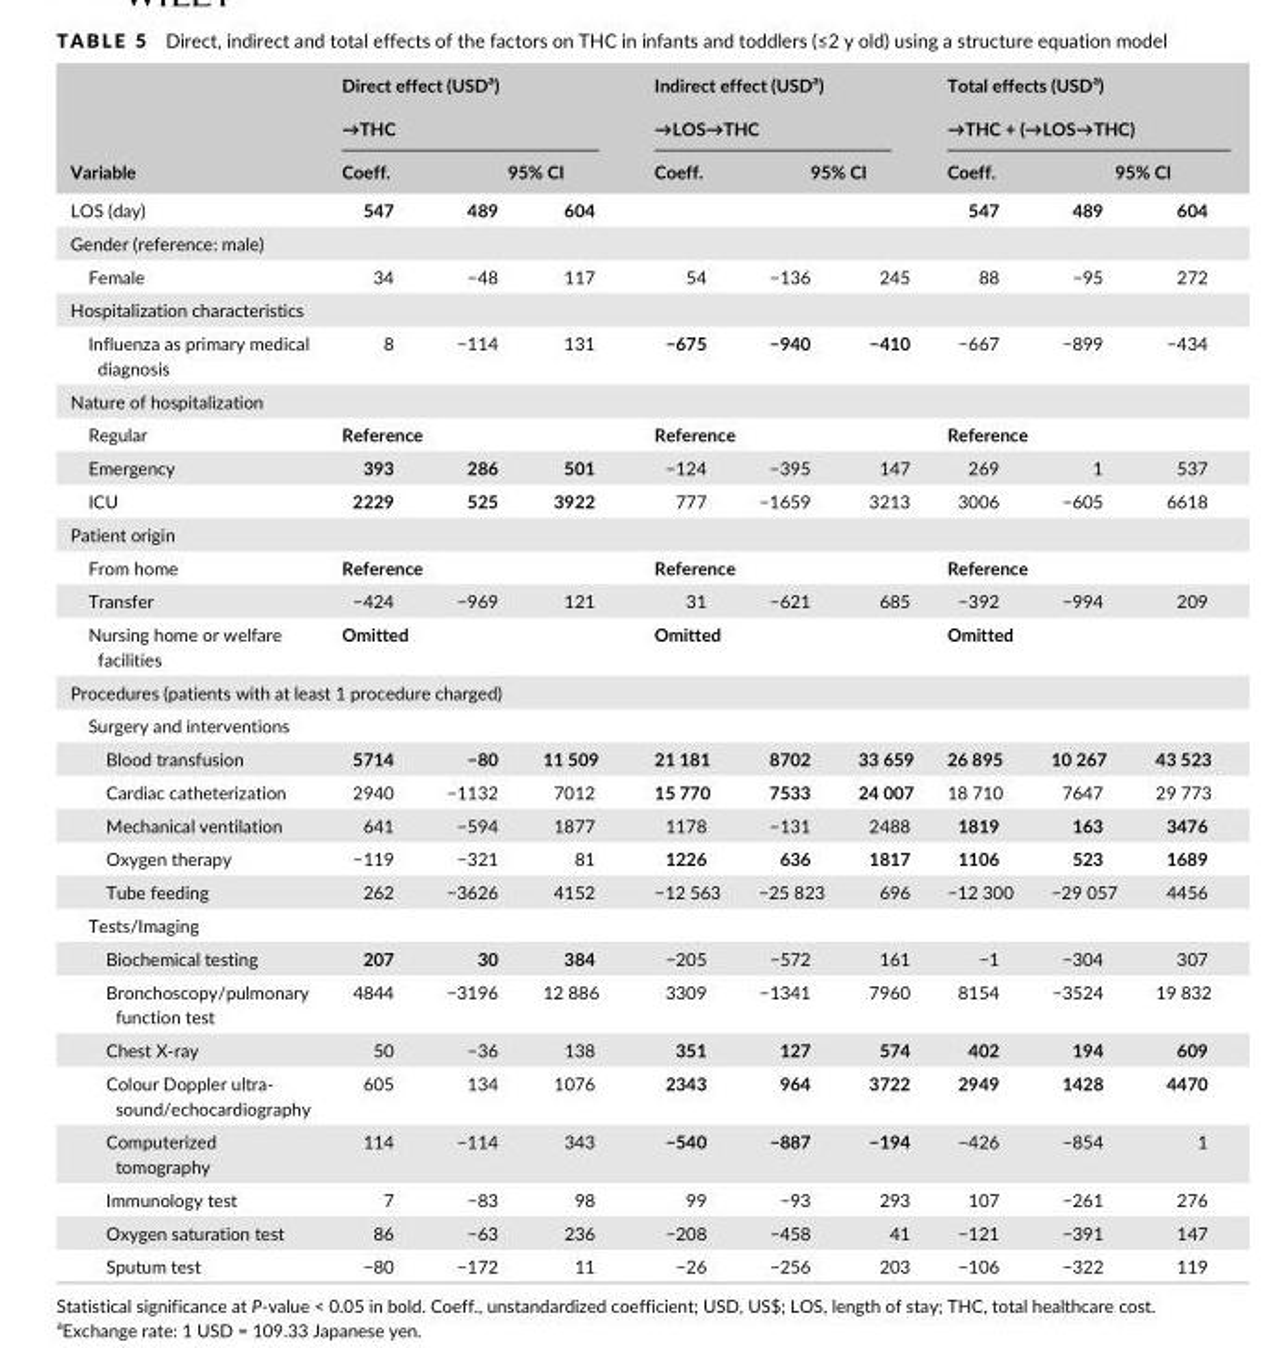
<table><thead><tr><td rowspan="4">Variable LOS (day)</td><td rowspan="2" colspan="3">Direct effect (USD<sup>a</sup>) →THC</td><td rowspan="2" colspan="3">Indirect effect (USD<sup>a</sup>) →LOS→THC</td><td rowspan="2" colspan="3">Total effects (USD<sup>a</sup>) →THC + (→LOS→THC)</td></tr><tr></tr><tr><td rowspan="2">Coeff. 547</td><td colspan="2">95% CI</td><td>Coeff.</td><td colspan="2">95% CI</td><td rowspan="2">Coeff. 547</td><td colspan="2">95% CI</td></tr><tr><td>489</td><td>604</td><td colspan="3"></td><td>489</td><td>604</td></tr><tr><td colspan="10">Gender (reference: male)</td></tr><tr><td>Female</td><td>34</td><td>−48</td><td>117</td><td>54</td><td>−136</td><td>245</td><td>88</td><td>−95</td><td>272</td></tr></thead><tbody><tr><td colspan="10">Hospitalization characteristics</td></tr><tr><td>Influenza as primary medical diagnosis</td><td>8</td><td>−114</td><td>131</td><td>−675</td><td>−940</td><td>−410</td><td>−667</td><td>−899</td><td>−434</td></tr><tr><td colspan="10">Nature of hospitalization</td></tr><tr><td>Regular</td><td colspan="3">Reference</td><td colspan="3">Reference</td><td colspan="3">Reference</td></tr><tr><td>Emergency</td><td>393</td><td>286</td><td>501</td><td>−124</td><td>−395</td><td>147</td><td>269</td><td>1</td><td>537</td></tr><tr><td>ICU</td><td>2229</td><td>525</td><td>3922</td><td>777</td><td>−1659</td><td>3213</td><td>3006</td><td>−605</td><td>6618</td></tr><tr><td colspan="10">Patient origin</td></tr><tr><td>From home</td><td colspan="3">Reference</td><td colspan="3">Reference</td><td colspan="3">Reference</td></tr><tr><td>Transfer</td><td>−424</td><td>−969</td><td>121</td><td>31</td><td>−621</td><td>685</td><td>−392</td><td>−994</td><td>209</td></tr><tr><td>Nursing home or welfare facilities</td><td colspan="3">Omitted</td><td colspan="3">Omitted</td><td colspan="3">Omitted</td></tr><tr><td colspan="10">Procedures (patients with at least 1 procedure charged)</td></tr><tr><td colspan="10">Surgery and interventions</td></tr><tr><td>Blood transfusion</td><td>5714</td><td>−80</td><td>11 509</td><td>21 181</td><td>8702</td><td>33 659</td><td>26 895</td><td>10 267</td><td>43 523</td></tr><tr><td>Cardiac catheterization</td><td>2940</td><td>−1132</td><td>7012</td><td>15 770</td><td>7533</td><td>24 007</td><td>18 710</td><td>7647</td><td>29 773</td></tr><tr><td>Mechanical ventilation</td><td>641</td><td>−594</td><td>1877</td><td>1178</td><td>−131</td><td>2488</td><td>1819</td><td>163</td><td>3476</td></tr><tr><td>Oxygen therapy</td><td>−119</td><td>−321</td><td>81</td><td>1226</td><td>636</td><td>1817</td><td>1106</td><td>523</td><td>1689</td></tr><tr><td>Tube feeding</td><td>262</td><td>−3626</td><td>4152</td><td>−12 563</td><td>−25 823</td><td>696</td><td>−12 300</td><td>−29 057</td><td>4456</td></tr><tr><td colspan="10">Tests/Imaging</td></tr><tr><td>Biochemical testing</td><td>207</td><td>30</td><td>384</td><td>−205</td><td>−572</td><td>161</td><td>−1</td><td>−304</td><td>307</td></tr><tr><td>Bronchoscopy/pulmonary function test</td><td>4844</td><td>−3196</td><td>12 886</td><td>3309</td><td>−1341</td><td>7960</td><td>8154</td><td>−3524</td><td>19 832</td></tr><tr><td>Chest X- ray</td><td>50</td><td>−36</td><td>138</td><td>351</td><td>127</td><td>574</td><td>402</td><td>194</td><td>609</td></tr><tr><td>Colour Doppler ultra- sound/echocardiography</td><td>605</td><td>134</td><td>1076</td><td>2343</td><td>964</td><td>3722</td><td>2949</td><td>1428</td><td>4470</td></tr><tr><td>Computerized tomography</td><td>114</td><td>−114</td><td>343</td><td>−540</td><td>−887</td><td>−194</td><td>−426</td><td>−854</td><td>1</td></tr><tr><td>Immunology test</td><td>7</td><td>−83</td><td>98</td><td>99</td><td>−93</td><td>293</td><td>107</td><td>−261</td><td>276</td></tr><tr><td>Oxygen saturation test</td><td>86</td><td>−63</td><td>236</td><td>−208</td><td>−458</td><td>41</td><td>−121</td><td>−391</td><td>147</td></tr><tr><td>Sputum test</td><td>−80</td><td>−172</td><td>11</td><td>−26</td><td>−256</td><td>203</td><td>−106</td><td>−322</td><td>119</td></tr></tbody></table>